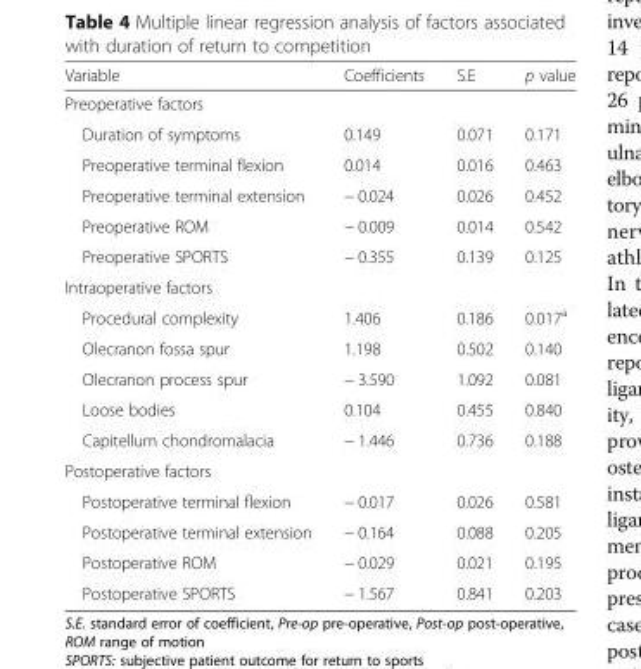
<table><thead><tr><td>Variable</td><td>Coefficients</td><td>S.E</td><td>p value</td></tr></thead><tbody><tr><td colspan="4">Preoperative factors</td></tr><tr><td>Duration of symptoms</td><td>0.149</td><td>0.071</td><td>0.171</td></tr><tr><td>Preoperative terminal flexion</td><td>0.014</td><td>0.016</td><td>0.463</td></tr><tr><td>Preoperative terminal extension</td><td>− 0.024</td><td>0.026</td><td>0.452</td></tr><tr><td>Preoperative ROM</td><td>− 0.009</td><td>0.014</td><td>0.542</td></tr><tr><td>Preoperative SPORTS</td><td>− 0.355</td><td>0.139</td><td>0.125</td></tr><tr><td colspan="4">Intraoperative factors</td></tr><tr><td>Procedural complexity</td><td>1.406</td><td>0.186</td><td>0.017<sup>a</sup></td></tr><tr><td>Olecranon fossa spur</td><td>1.198</td><td>0.502</td><td>0.140</td></tr><tr><td>Olecranon process spur</td><td>− 3.590</td><td>1.092</td><td>0.081</td></tr><tr><td>Loose bodies</td><td>0.104</td><td>0.455</td><td>0.840</td></tr><tr><td>Capitellum chondromalacia</td><td>− 1.446</td><td>0.736</td><td>0.188</td></tr><tr><td colspan="4">Postoperative factors</td></tr><tr><td>Postoperative terminal flexion</td><td>− 0.017</td><td>0.026</td><td>0.581</td></tr><tr><td>Postoperative terminal extension</td><td>− 0.164</td><td>0.088</td><td>0.205</td></tr><tr><td>Postoperative ROM</td><td>− 0.029</td><td>0.021</td><td>0.195</td></tr><tr><td>Postoperative SPORTS</td><td>− 1.567</td><td>0.841</td><td>0.203</td></tr></tbody></table>